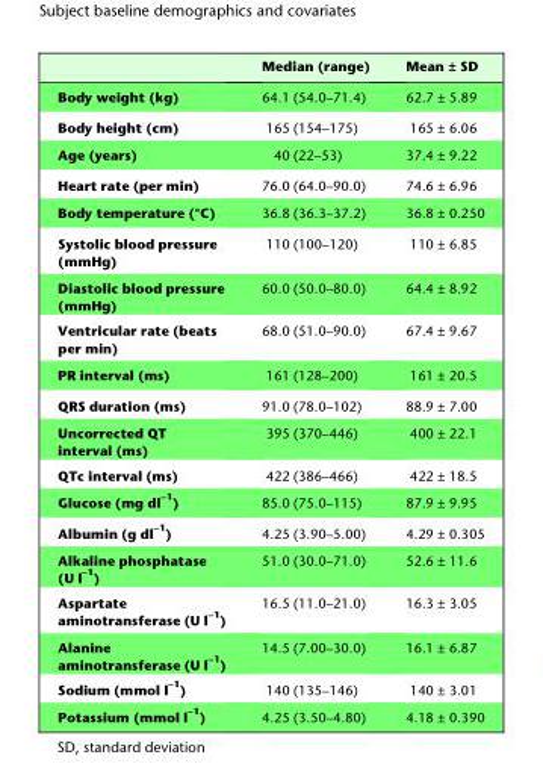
<table><thead><tr><td></td><td>Median (range)</td><td>Mean ± SD</td></tr></thead><tbody><tr><td>Body weight (kg)</td><td>64.1 (54.0–71.4)</td><td>62.7 ± 5.89</td></tr><tr><td>Body height (cm)</td><td>165 (154–175)</td><td>165 ± 6.06</td></tr><tr><td>Age (years)</td><td>40 (22–53)</td><td>37.4 ± 9.22</td></tr><tr><td>Heart rate (per min)</td><td>76.0 (64.0–90.0)</td><td>74.6 ± 6.96</td></tr><tr><td>Body temperature (°C)</td><td>36.8 (36.3–37.2)</td><td>36.8 ± 0.250</td></tr><tr><td>Systolic blood pressure (mmHg)</td><td>110 (100–120)</td><td>110 ± 6.85</td></tr><tr><td>Diastolic blood pressure (mmHg)</td><td>60.0 (50.0–80.0)</td><td>64.4 ± 8.92</td></tr><tr><td>Ventricular rate (beats per min)</td><td>68.0 (51.0–90.0)</td><td>67.4 ± 9.67</td></tr><tr><td>PR interval (ms)</td><td>161 (128–200)</td><td>161 ± 20.5</td></tr><tr><td>QRS duration (ms)</td><td>91.0 (78.0–102)</td><td>88.9 ± 7.00</td></tr><tr><td>Uncorrected QT interval (ms)</td><td>395 (370–446)</td><td>400 ± 22.1</td></tr><tr><td>QTc interval (ms)</td><td>422 (386–466)</td><td>422 ± 18.5</td></tr><tr><td>Glucose (mg dl <sup>–1</sup>)</td><td>85.0 (75.0–115)</td><td>87.9 ± 9.95</td></tr><tr><td>Albumin (g dl <sup>–1</sup>)</td><td>4.25 (3.90–5.00)</td><td>4.29 ± 0.305</td></tr><tr><td>Alkaline phosphatase (U l <sup>–1</sup>)</td><td>51.0 (30.0–71.0)</td><td>52.6 ± 11.6</td></tr><tr><td>Aspartate aminotransferase (U l <sup>–1</sup>)</td><td>16.5 (11.0–21.0)</td><td>16.3 ± 3.05</td></tr><tr><td>Alanine aminotransferase (U l <sup>–1</sup>)</td><td>14.5 (7.00–30.0)</td><td>16.1 ± 6.87</td></tr><tr><td>Sodium (mmol l <sup>–1</sup>)</td><td>140 (135–146)</td><td>140 ± 3.01</td></tr><tr><td>Potassium (mmol l <sup>–1</sup>)</td><td>4.25 (3.50–4.80)</td><td>4.18 ± 0.390</td></tr></tbody></table>